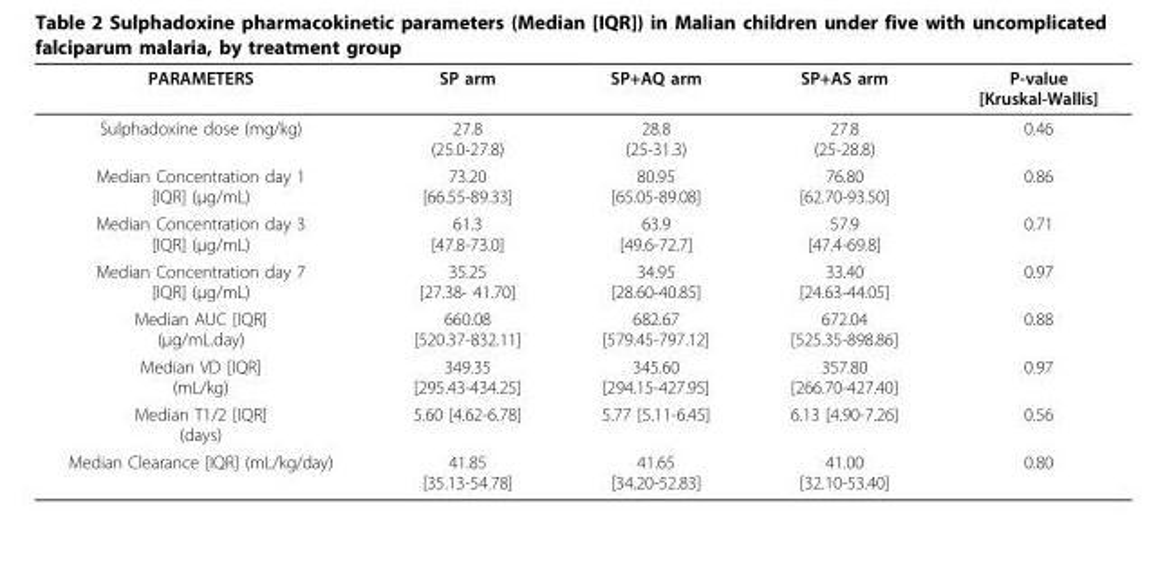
<table><thead><tr><td>PARAMETERS</td><td>SP arm</td><td>SP+AQ arm</td><td>SP+AS arm</td><td>P-value [Kruskal-Wallis]</td></tr></thead><tbody><tr><td>Sulphadoxine dose (mg/kg)</td><td>27.8 (25.0-27.8)</td><td>28.8 (25-31.3)</td><td>27.8 (25-28.8)</td><td>0.46</td></tr><tr><td>Median Concentration day 1 [IQR] (μg/mL)</td><td>73.20 [66.55-89.33]</td><td>80.95 [65.05-89.08]</td><td>76.80 [62.70-93.50]</td><td>0.86</td></tr><tr><td>Median Concentration day 3 [IQR] (μg/mL)</td><td>61.3 [47.8-73.0]</td><td>63.9 [49.6-72.7]</td><td>57.9 [47.4-69.8]</td><td>0.71</td></tr><tr><td>Median Concentration day 7 [IQR] (μg/mL)</td><td>35.25 [27.38- 41.70]</td><td>34.95 [28.60-40.85]</td><td>33.40 [24.63-44.05]</td><td>0.97</td></tr><tr><td>Median AUC [IQR] (μg/mL.day)</td><td>660.08 [520.37-832.11]</td><td>682.67 [579.45-797.12]</td><td>672.04 [525.35-898.86]</td><td>0.88</td></tr><tr><td>Median VD [IQR] (mL/kg)</td><td>349.35 [295.43-434.25]</td><td>345.60 [294.15-427.95]</td><td>357.80 [266.70-427.40]</td><td>0.97</td></tr><tr><td>Median T1/2 [IQR] (days)</td><td>5.60 [4.62-6.78]</td><td>5.77 [5.11-6.45]</td><td>6.13 [4.90-7.26]</td><td>0.56</td></tr><tr><td>Median Clearance [IQR] (mL/kg/day)</td><td>41.85 [35.13-54.78]</td><td>41.65 [34.20-52.83]</td><td>41.00 [32.10-53.40]</td><td>0.80</td></tr></tbody></table>